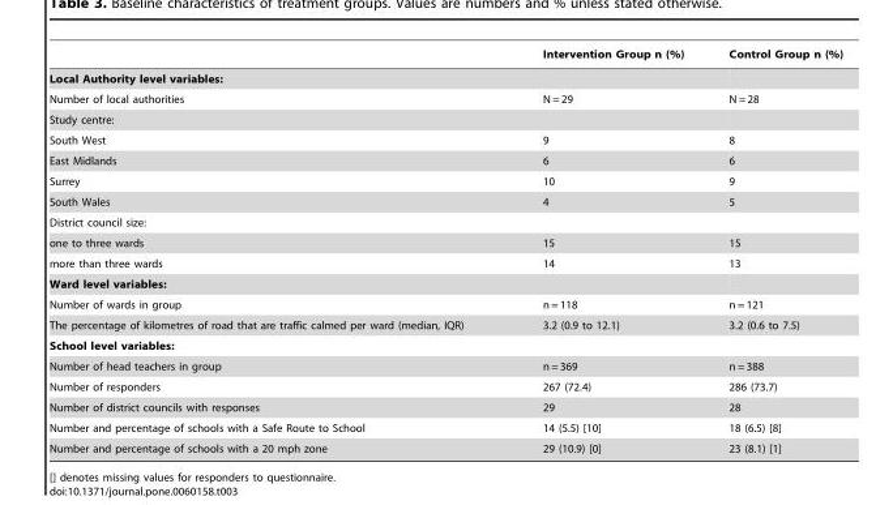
<table><thead><tr><td></td><td>Intervention Group n (%)</td><td>Control Group n (%)</td></tr></thead><tbody><tr><td colspan="3">Local Authority level variables:</td></tr><tr><td>Number of local authorities</td><td>N = 29</td><td>N = 28</td></tr><tr><td colspan="3">Study centre:</td></tr><tr><td>South West</td><td>9</td><td>8</td></tr><tr><td>East Midlands</td><td>6</td><td>6</td></tr><tr><td>Surrey</td><td>10</td><td>9</td></tr><tr><td>South Wales</td><td>4</td><td>5</td></tr><tr><td colspan="3">District council size:</td></tr><tr><td>one to three wards</td><td>15</td><td>15</td></tr><tr><td>more than three wards</td><td>14</td><td>13</td></tr><tr><td colspan="3">Ward level variables:</td></tr><tr><td>Number of wards in group</td><td>n = 118</td><td>n = 121</td></tr><tr><td>The percentage of kilometres of road that are traffic calmed per ward (median, IQR)</td><td>3.2 (0.9 to 12.1)</td><td>3.2 (0.6 to 7.5)</td></tr><tr><td colspan="3">School level variables:</td></tr><tr><td>Number of head teachers in group</td><td>n = 369</td><td>n = 388</td></tr><tr><td>Number of responders</td><td>267 (72.4)</td><td>286 (73.7)</td></tr><tr><td>Number of district councils with responses</td><td>29</td><td>28</td></tr><tr><td>Number and percentage of schools with a Safe Route to School</td><td>14 (5.5) [10]</td><td>18 (6.5) [8]</td></tr><tr><td>Number and percentage of schools with a 20 mph zone</td><td>29 (10.9) [0]</td><td>23 (8.1) [1]</td></tr></tbody></table>